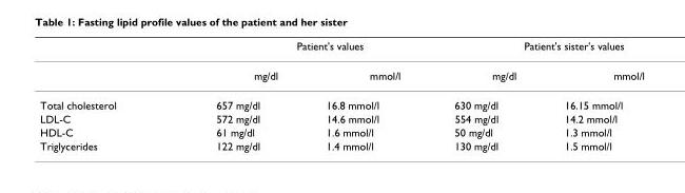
<table><thead><tr><td rowspan="2"></td><td colspan="2">Patient&#x27;s values</td><td colspan="2">Patient&#x27;s sister&#x27;s values</td></tr><tr><td>mg/dl</td><td>mmol/l</td><td>mg/dl</td><td>mmol/l</td></tr></thead><tbody><tr><td>Total cholesterol</td><td>657 mg/dl</td><td>16.8 mmol/l</td><td>630 mg/dl</td><td>16.15 mmol/l</td></tr><tr><td>LDL-C</td><td>572 mg/dl</td><td>14.6 mmol/l</td><td>554 mg/dl</td><td>14.2 mmol/l</td></tr><tr><td>HDL-C</td><td>61 mg/dl</td><td>1.6 mmol/l</td><td>50 mg/dl</td><td>1.3 mmol/l</td></tr><tr><td>Triglycerides</td><td>122 mg/dl</td><td>1.4 mmol/l</td><td>130 mg/dl</td><td>1.5 mmol/l</td></tr></tbody></table>